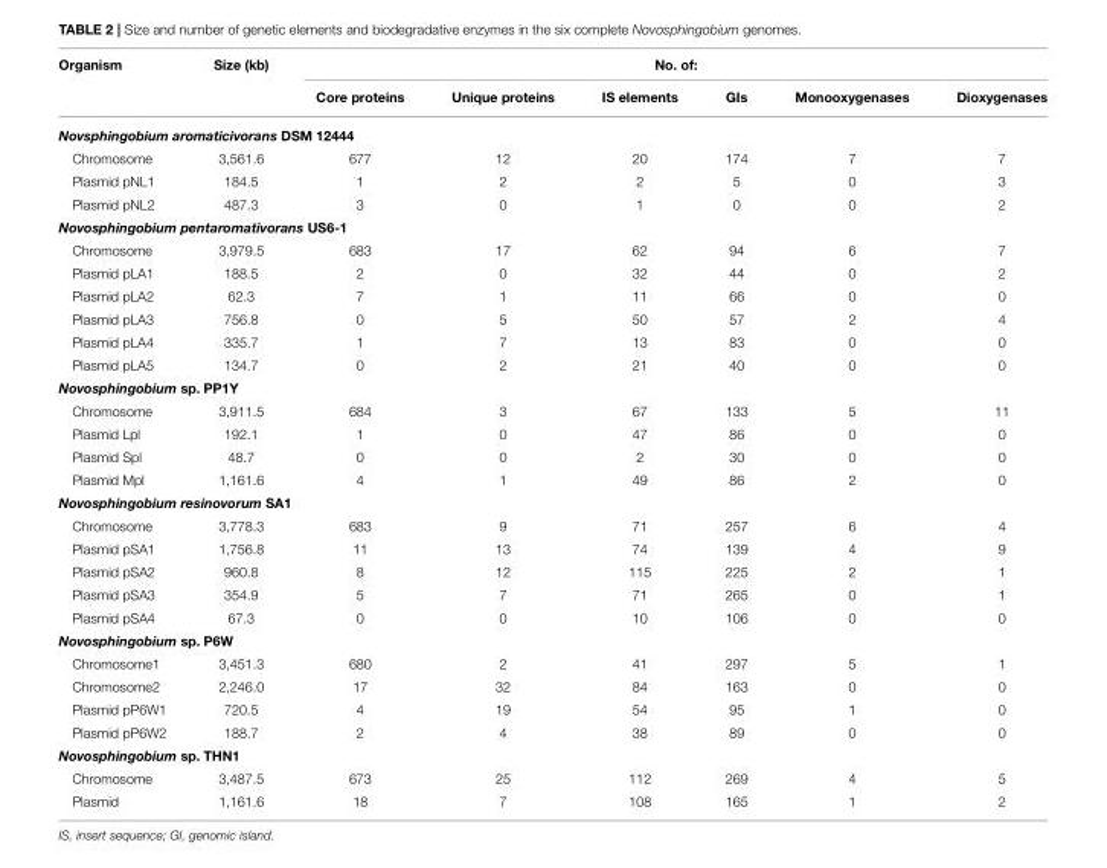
<table><thead><tr><td rowspan="2">Organism</td><td rowspan="2">Size (kb)</td><td colspan="6">No. of:</td></tr><tr><td>Core proteins</td><td>Unique proteins</td><td>IS elements</td><td>GIs</td><td>Monooxygenases</td><td>Dioxygenases</td></tr></thead><tbody><tr><td colspan="8">Novsphingobium aromaticivorans DSM 12444</td></tr><tr><td>Chromosome</td><td>3,561.6</td><td>677</td><td>12</td><td>20</td><td>174</td><td>7</td><td>7</td></tr><tr><td>Plasmid pNL1</td><td>184.5</td><td>1</td><td>2</td><td>2</td><td>5</td><td>0</td><td>3</td></tr><tr><td>Plasmid pNL2</td><td>487.3</td><td>3</td><td>0</td><td>1</td><td>0</td><td>0</td><td>2</td></tr><tr><td colspan="8">Novosphingobium pentaromativorans US6-1</td></tr><tr><td>Chromosome</td><td>3,979.5</td><td>683</td><td>17</td><td>62</td><td>94</td><td>6</td><td>7</td></tr><tr><td>Plasmid pLA1</td><td>188.5</td><td>2</td><td>0</td><td>32</td><td>44</td><td>0</td><td>2</td></tr><tr><td>Plasmid pLA2</td><td>62.3</td><td>7</td><td>1</td><td>11</td><td>66</td><td>0</td><td>0</td></tr><tr><td>Plasmid pLA3</td><td>756.8</td><td>0</td><td>5</td><td>50</td><td>57</td><td>2</td><td>4</td></tr><tr><td>Plasmid pLA4</td><td>335.7</td><td>1</td><td>7</td><td>13</td><td>83</td><td>0</td><td>0</td></tr><tr><td>Plasmid pLA5</td><td>134.7</td><td>0</td><td>2</td><td>21</td><td>40</td><td>0</td><td>0</td></tr><tr><td colspan="8">Novosphingobium sp. PP1Y</td></tr><tr><td>Chromosome</td><td>3,911.5</td><td>684</td><td>3</td><td>67</td><td>133</td><td>5</td><td>11</td></tr><tr><td>Plasmid Lpl</td><td>192.1</td><td>1</td><td>0</td><td>47</td><td>86</td><td>0</td><td>0</td></tr><tr><td>Plasmid Spl</td><td>48.7</td><td>0</td><td>0</td><td>2</td><td>30</td><td>0</td><td>0</td></tr><tr><td>Plasmid Mpl</td><td>1,161.6</td><td>4</td><td>1</td><td>49</td><td>86</td><td>2</td><td>0</td></tr><tr><td colspan="8">Novosphingobium resinovorum SA1</td></tr><tr><td>Chromosome</td><td>3,778.3</td><td>683</td><td>9</td><td>71</td><td>257</td><td>6</td><td>4</td></tr><tr><td>Plasmid pSA1</td><td>1,756.8</td><td>11</td><td>13</td><td>74</td><td>139</td><td>4</td><td>9</td></tr><tr><td>Plasmid pSA2</td><td>960.8</td><td>8</td><td>12</td><td>115</td><td>225</td><td>2</td><td>1</td></tr><tr><td>Plasmid pSA3</td><td>354.9</td><td>5</td><td>7</td><td>71</td><td>265</td><td>0</td><td>1</td></tr><tr><td>Plasmid pSA4</td><td>67.3</td><td>0</td><td>0</td><td>10</td><td>106</td><td>0</td><td>0</td></tr><tr><td colspan="8">Novosphingobium sp. P6W</td></tr><tr><td>Chromosome1</td><td>3,451.3</td><td>680</td><td>2</td><td>41</td><td>297</td><td>5</td><td>1</td></tr><tr><td>Chromosome2</td><td>2,246.0</td><td>17</td><td>32</td><td>84</td><td>163</td><td>0</td><td>0</td></tr><tr><td>Plasmid pP6W1</td><td>720.5</td><td>4</td><td>19</td><td>54</td><td>95</td><td>1</td><td>0</td></tr><tr><td>Plasmid pP6W2</td><td>188.7</td><td>2</td><td>4</td><td>38</td><td>89</td><td>0</td><td>0</td></tr><tr><td colspan="8">Novosphingobium sp. THN1</td></tr><tr><td>Chromosome</td><td>3,487.5</td><td>673</td><td>25</td><td>112</td><td>269</td><td>4</td><td>5</td></tr><tr><td>Plasmid</td><td>1,161.6</td><td>18</td><td>7</td><td>108</td><td>165</td><td>1</td><td>2</td></tr></tbody></table>